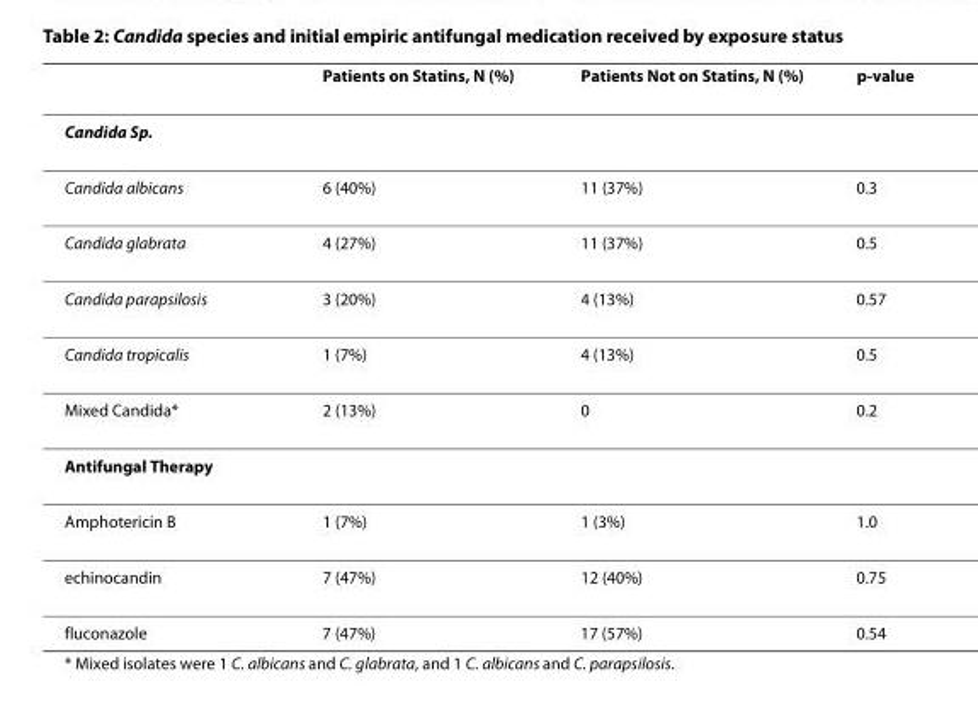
<table><thead><tr><td></td><td>Patients on Statins, N (%)</td><td>Patients Not on Statins, N (%)</td><td>p-value</td></tr></thead><tbody><tr><td colspan="4">Candida Sp.</td></tr><tr><td>Candida albicans</td><td>6 (40%)</td><td>11 (37%)</td><td>0.3</td></tr><tr><td>Candida glabrata</td><td>4 (27%)</td><td>11 (37%)</td><td>0.5</td></tr><tr><td>Candida parapsilosis</td><td>3 (20%)</td><td>4 (13%)</td><td>0.57</td></tr><tr><td>Candida tropicalis</td><td>1 (7%)</td><td>4 (13%)</td><td>0.5</td></tr><tr><td>Mixed Candida*</td><td>2 (13%)</td><td>0</td><td>0.2</td></tr><tr><td colspan="4">Antifungal Therapy</td></tr><tr><td>Amphotericin B</td><td>1 (7%)</td><td>1 (3%)</td><td>1.0</td></tr><tr><td>echinocandin</td><td>7 (47%)</td><td>12 (40%)</td><td>0.75</td></tr><tr><td>fluconazole</td><td>7 (47%)</td><td>17 (57%)</td><td>0.54</td></tr></tbody></table>